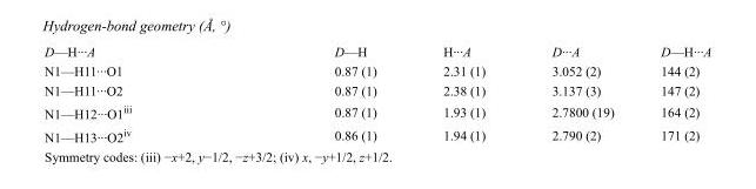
<table><tbody><tr><td>D—H···A</td><td>D—H</td><td>H···A</td><td>D···A</td><td>D—H···A</td></tr><tr><td>N1—H11···O1</td><td>0.87 (1)</td><td>2.31 (1)</td><td>3.052 (2)</td><td>144 (2)</td></tr><tr><td>N1—H11···O2</td><td>0.87 (1)</td><td>2.38 (1)</td><td>3.137 (3)</td><td>147 (2)</td></tr><tr><td>N1—H12···O1<sup>iii</sup></td><td>0.87 (1)</td><td>1.93 (1)</td><td>2.7800 (19)</td><td>164 (2)</td></tr><tr><td>N1—H13···O2<sup>iv</sup></td><td>0.86 (1)</td><td>1.94 (1)</td><td>2.790 (2)</td><td>171 (2)</td></tr></tbody></table>